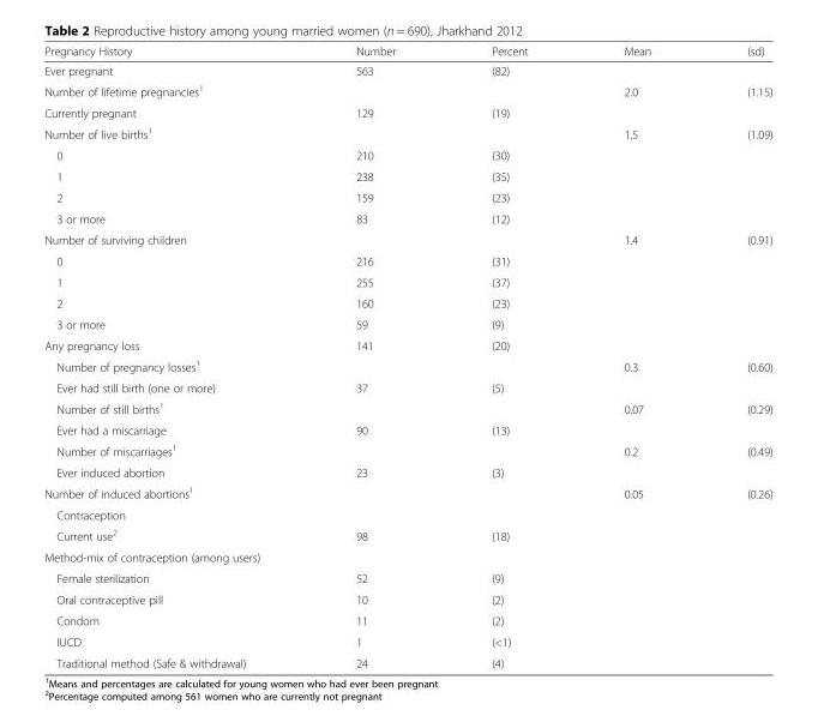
<table><thead><tr><td>Pregnancy History</td><td>Number</td><td>Percent</td><td>Mean</td><td>(sd)</td></tr></thead><tbody><tr><td>Ever pregnant</td><td>563</td><td>(82)</td><td></td><td></td></tr><tr><td>Number of lifetime pregnancies<sup>1</sup></td><td></td><td></td><td>2.0</td><td>(1.15)</td></tr><tr><td>Currently pregnant</td><td>129</td><td>(19)</td><td></td><td></td></tr><tr><td>Number of live births<sup>1</sup></td><td></td><td></td><td>1.5</td><td>(1.09)</td></tr><tr><td>0</td><td>210</td><td>(30)</td><td></td><td></td></tr><tr><td>1</td><td>238</td><td>(35)</td><td></td><td></td></tr><tr><td>2</td><td>159</td><td>(23)</td><td></td><td></td></tr><tr><td>3 or more</td><td>83</td><td>(12)</td><td></td><td></td></tr><tr><td>Number of surviving children</td><td></td><td></td><td>1.4</td><td>(0.91)</td></tr><tr><td>0</td><td>216</td><td>(31)</td><td></td><td></td></tr><tr><td>1</td><td>255</td><td>(37)</td><td></td><td></td></tr><tr><td>2</td><td>160</td><td>(23)</td><td></td><td></td></tr><tr><td>3 or more</td><td>59</td><td>(9)</td><td></td><td></td></tr><tr><td>Any pregnancy loss</td><td>141</td><td>(20)</td><td></td><td></td></tr><tr><td>Number of pregnancy losses<sup>1</sup></td><td></td><td></td><td>0.3</td><td>(0.60)</td></tr><tr><td>Ever had still birth (one or more)</td><td>37</td><td>(5)</td><td></td><td></td></tr><tr><td>Number of still births<sup>1</sup></td><td></td><td></td><td>0.07</td><td>(0.29)</td></tr><tr><td>Ever had a miscarriage</td><td>90</td><td>(13)</td><td></td><td></td></tr><tr><td>Number of miscarriages<sup>1</sup></td><td></td><td></td><td>0.2</td><td>(0.49)</td></tr><tr><td>Ever induced abortion</td><td>23</td><td>(3)</td><td></td><td></td></tr><tr><td>Number of induced abortions<sup>1</sup></td><td></td><td></td><td>0.05</td><td>(0.26)</td></tr><tr><td colspan="5">Contraception</td></tr><tr><td>Current use<sup>2</sup></td><td>98</td><td>(18)</td><td></td><td></td></tr><tr><td colspan="5">Method-mix of contraception (among users)</td></tr><tr><td>Female sterilization</td><td>52</td><td>(9)</td><td></td><td></td></tr><tr><td>Oral contraceptive pill</td><td>10</td><td>(2)</td><td></td><td></td></tr><tr><td>Condom</td><td>11</td><td>(2)</td><td></td><td></td></tr><tr><td>IUCD</td><td>1</td><td>(&lt;1)</td><td></td><td></td></tr><tr><td>Traditional method (Safe &amp; withdrawal)</td><td>24</td><td>(4)</td><td></td><td></td></tr></tbody></table>